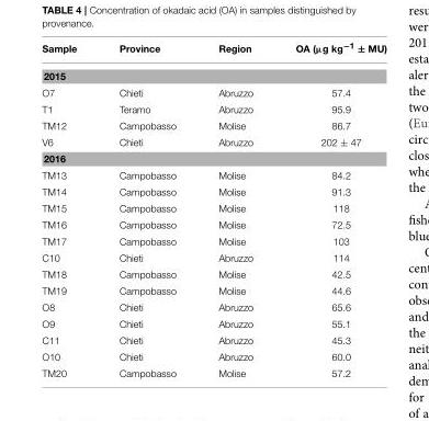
<table><thead><tr><td>Sample</td><td>Province</td><td>Region</td><td>OA (µg kg<sup>−1</sup> ± MU)</td></tr></thead><tbody><tr><td colspan="4">2015</td></tr><tr><td>O7</td><td>Chieti</td><td>Abruzzo</td><td>57.4</td></tr><tr><td>T1</td><td>Teramo</td><td>Abruzzo</td><td>95.9</td></tr><tr><td>TM12</td><td>Campobasso</td><td>Molise</td><td>86.7</td></tr><tr><td>V6</td><td>Chieti</td><td>Abruzzo</td><td>202 ± 47</td></tr><tr><td colspan="4">2016</td></tr><tr><td>TM13</td><td>Campobasso</td><td>Molise</td><td>84.2</td></tr><tr><td>TM14</td><td>Campobasso</td><td>Molise</td><td>91.3</td></tr><tr><td>TM15</td><td>Campobasso</td><td>Molise</td><td>118</td></tr><tr><td>TM16</td><td>Campobasso</td><td>Molise</td><td>72.5</td></tr><tr><td>TM17</td><td>Campobasso</td><td>Molise</td><td>103</td></tr><tr><td>C10</td><td>Chieti</td><td>Abruzzo</td><td>114</td></tr><tr><td>TM18</td><td>Campobasso</td><td>Molise</td><td>42.5</td></tr><tr><td>TM19</td><td>Campobasso</td><td>Molise</td><td>44.6</td></tr><tr><td>O8</td><td>Chieti</td><td>Abruzzo</td><td>65.6</td></tr><tr><td>O9</td><td>Chieti</td><td>Abruzzo</td><td>55.1</td></tr><tr><td>C11</td><td>Chieti</td><td>Abruzzo</td><td>45.3</td></tr><tr><td>O10</td><td>Chieti</td><td>Abruzzo</td><td>60.0</td></tr><tr><td>TM20</td><td>Campobasso</td><td>Molise</td><td>57.2</td></tr></tbody></table>